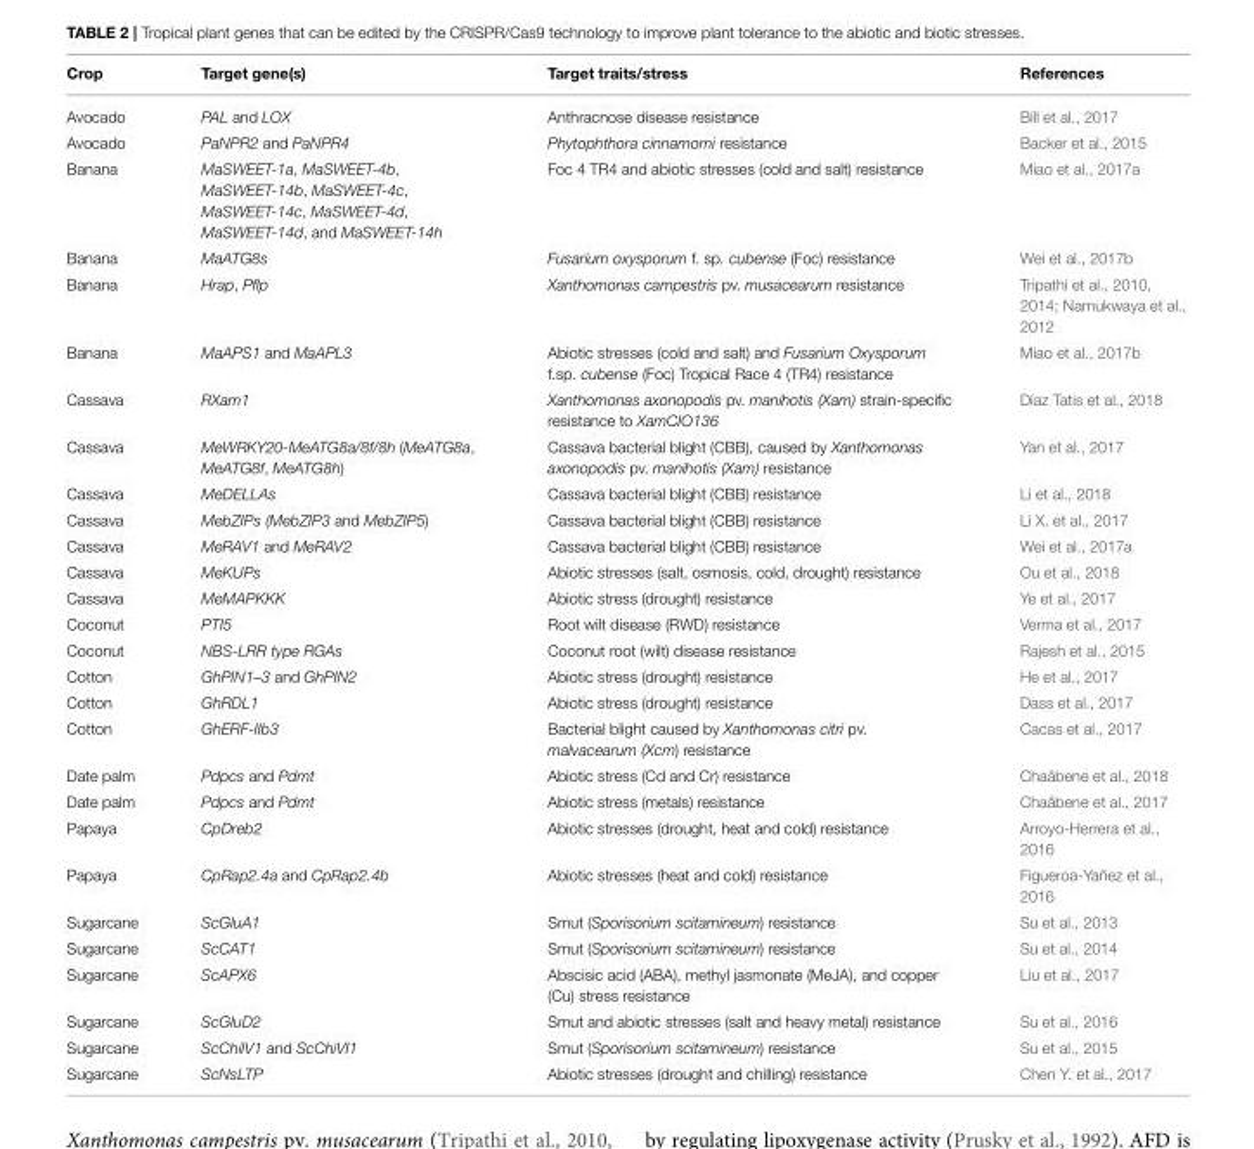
<table><thead><tr><td>Crop</td><td>Target gene(s)</td><td>Target traits/stress</td><td>References</td></tr></thead><tbody><tr><td>Avocado</td><td>PAL and LOX</td><td>Anthracnose disease resistance</td><td>Bill et al., 2017</td></tr><tr><td>Avocado</td><td>PaNPR2 and PaNPR4</td><td>Phytophthora cinnamomi resistance</td><td>Backer et al., 2015</td></tr><tr><td>Banana</td><td>MaSWEET-1a, MaSWEET-4b, MaSWEET-14b, MaSWEET-4c, MaSWEET-14c, MaSWEET-4d, MaSWEET-14d, and MaSWEET-14h</td><td>Foc 4 TR4 and abiotic stresses (cold and salt) resistance</td><td>Miao et al., 2017a</td></tr><tr><td>Banana</td><td>MaATG8s</td><td>Fusarium oxysporum f. sp. cubense (Foc) resistance</td><td>Wei et al., 2017b</td></tr><tr><td>Banana</td><td>Hrap, Pflp</td><td>Xanthomonas campestris pv. musacearum resistance</td><td>Tripathi et al., 2010, 2014; Namukwaya et al., 2012</td></tr><tr><td>Banana</td><td>MaAPS1 and MaAPL3</td><td>Abiotic stresses (cold and salt) and Fusarium Oxysporum f.sp. cubense (Foc) Tropical Race 4 (TR4) resistance</td><td>Miao et al., 2017b</td></tr><tr><td>Cassava</td><td>RXam1</td><td>Xanthomonas axonopodis pv. manihotis (Xam) strain-specific resistance to XamCIO136</td><td>Díaz Tatis et al., 2018</td></tr><tr><td>Cassava</td><td>MeWRKY20-MeATG8a/8f/8h (MeATG8a, MeATG8f, MeATG8h)</td><td>Cassava bacterial blight (CBB), caused by Xanthomonas axonopodis pv. manihotis (Xam) resistance</td><td>Yan et al., 2017</td></tr><tr><td>Cassava</td><td>MeDELLAs</td><td>Cassava bacterial blight (CBB) resistance</td><td>Li et al., 2018</td></tr><tr><td>Cassava</td><td>MebZIPs (MebZIP3 and MebZIP5)</td><td>Cassava bacterial blight (CBB) resistance</td><td>Li X. et al., 2017</td></tr><tr><td>Cassava</td><td>MeRAV1 and MeRAV2</td><td>Cassava bacterial blight (CBB) resistance</td><td>Wei et al., 2017a</td></tr><tr><td>Cassava</td><td>MeKUPs</td><td>Abiotic stresses (salt, osmosis, cold, drought) resistance</td><td>Ou et al., 2018</td></tr><tr><td>Cassava</td><td>MeMAPKKK</td><td>Abiotic stress (drought) resistance</td><td>Ye et al., 2017</td></tr><tr><td>Coconut</td><td>PTI5</td><td>Root wilt disease (RWD) resistance</td><td>Verma et al., 2017</td></tr><tr><td>Coconut</td><td>NBS-LRR type RGAs</td><td>Coconut root (wilt) disease resistance</td><td>Rajesh et al., 2015</td></tr><tr><td>Cotton</td><td>GhPIN1–3 and GhPIN2</td><td>Abiotic stress (drought) resistance</td><td>He et al., 2017</td></tr><tr><td>Cotton</td><td>GhRDL1</td><td>Abiotic stress (drought) resistance</td><td>Dass et al., 2017</td></tr><tr><td>Cotton</td><td>GhERF-IIb3</td><td>Bacterial blight caused by Xanthomonas citri pv. malvacearum (Xcm) resistance</td><td>Cacas et al., 2017</td></tr><tr><td>Date palm</td><td>Pdpcs and Pdmt</td><td>Abiotic stress (Cd and Cr) resistance</td><td>Chaâbene et al., 2018</td></tr><tr><td>Date palm</td><td>Pdpcs and Pdmt</td><td>Abiotic stress (metals) resistance</td><td>Chaâbene et al., 2017</td></tr><tr><td>Papaya</td><td>CpDreb2</td><td>Abiotic stresses (drought, heat and cold) resistance</td><td>Arroyo-Herrera et al., 2016</td></tr><tr><td>Papaya</td><td>CpRap2.4a and CpRap2.4b</td><td>Abiotic stresses (heat and cold) resistance</td><td>Figueroa-Yañez et al., 2016</td></tr><tr><td>Sugarcane</td><td>ScGluA1</td><td>Smut (Sporisorium scitamineum) resistance</td><td>Su et al., 2013</td></tr><tr><td>Sugarcane</td><td>ScCAT1</td><td>Smut (Sporisorium scitamineum) resistance</td><td>Su et al., 2014</td></tr><tr><td>Sugarcane</td><td>ScAPX6</td><td>Abscisic acid (ABA), methyl jasmonate (MeJA), and copper (Cu) stress resistance</td><td>Liu et al., 2017</td></tr><tr><td>Sugarcane</td><td>ScGluD2</td><td>Smut and abiotic stresses (salt and heavy metal) resistance</td><td>Su et al., 2016</td></tr><tr><td>Sugarcane</td><td>ScChiIV1 and ScChiVI1</td><td>Smut (Sporisorium scitamineum) resistance</td><td>Su et al., 2015</td></tr><tr><td>Sugarcane</td><td>ScNsLTP</td><td>Abiotic stresses (drought and chilling) resistance</td><td>Chen Y. et al., 2017</td></tr></tbody></table>